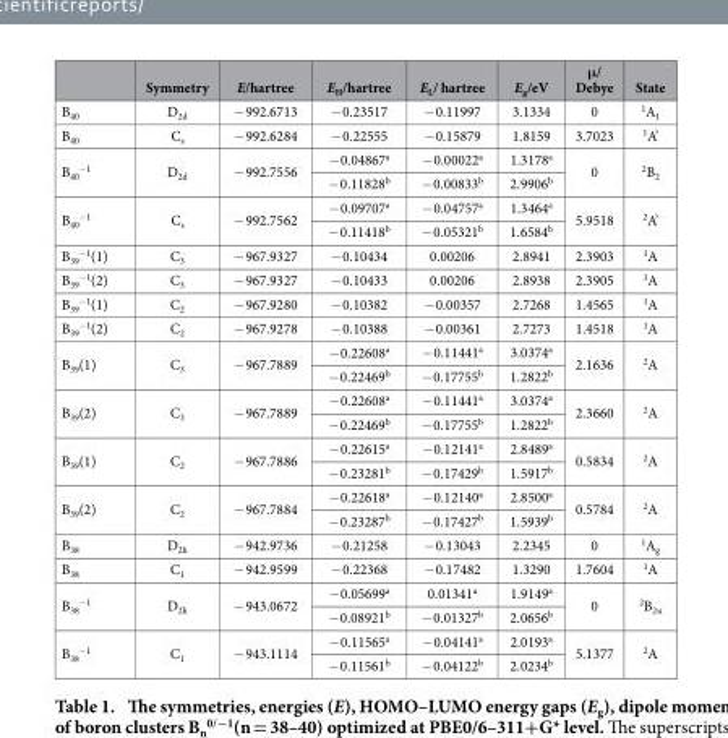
<table><thead><tr><td></td><td>Symmetry</td><td>E/hartree</td><td>E<sub>H</sub>/hartree</td><td>E<sub>L</sub>/ hartree</td><td>E<sub>g</sub>/eV</td><td>μ/ Debye</td><td>State</td></tr></thead><tbody><tr><td>B<sub>40</sub></td><td>D<sub>2d</sub></td><td>− 992.6713</td><td>− 0.23517</td><td>− 0.11997</td><td>3.1334</td><td>0</td><td><sup>1</sup>A<sub>1</sub></td></tr><tr><td>B<sub>40</sub></td><td>C<sub>s</sub></td><td>− 992.6284</td><td>− 0.22555</td><td>− 0.15879</td><td>1.8159</td><td>3.7023</td><td><sup>1</sup>A’</td></tr><tr><td rowspan="2">B<sub>40</sub> <sup>−1</sup></td><td rowspan="2">D<sub>2d</sub></td><td rowspan="2">− 992.7556</td><td>− 0.04867<sup>a</sup></td><td>− 0.00022<sup>a</sup></td><td>1.3178<sup>a</sup></td><td rowspan="2">0</td><td rowspan="2"><sup>2</sup>B<sub>2</sub></td></tr><tr><td>− 0.11828<sup>b</sup></td><td>− 0.00833<sup>b</sup></td><td>2.9906<sup>b</sup></td></tr><tr><td rowspan="2">B<sub>40</sub> <sup>−1</sup></td><td rowspan="2">C<sub>s</sub></td><td rowspan="2">− 992.7562</td><td>− 0.09707<sup>a</sup></td><td>− 0.04757<sup>a</sup></td><td>1.3464<sup>a</sup></td><td rowspan="2">5.9518</td><td rowspan="2"><sup>2</sup>A’</td></tr><tr><td>− 0.11418<sup>b</sup></td><td>− 0.05321<sup>b</sup></td><td>1.6584<sup>b</sup></td></tr><tr><td>B<sub>39</sub> <sup>−1</sup>(1)</td><td>C<sub>3</sub></td><td>− 967.9327</td><td>− 0.10434</td><td>0.00206</td><td>2.8941</td><td>2.3903</td><td><sup>1</sup>A</td></tr><tr><td>B<sub>39</sub> <sup>−1</sup>(2)</td><td>C<sub>3</sub></td><td>− 967.9327</td><td>− 0.10433</td><td>0.00206</td><td>2.8938</td><td>2.3905</td><td><sup>1</sup>A</td></tr><tr><td>B<sub>39</sub> <sup>−1</sup>(1)</td><td>C<sub>2</sub></td><td>− 967.9280</td><td>− 0.10382</td><td>− 0.00357</td><td>2.7268</td><td>1.4565</td><td><sup>1</sup>A</td></tr><tr><td>B<sub>39</sub> <sup>−1</sup>(2)</td><td>C<sub>2</sub></td><td>− 967.9278</td><td>− 0.10388</td><td>− 0.00361</td><td>2.7273</td><td>1.4518</td><td><sup>1</sup>A</td></tr><tr><td rowspan="2">B<sub>39</sub>(1)</td><td rowspan="2">C<sub>3</sub></td><td rowspan="2">− 967.7889</td><td>− 0.22608<sup>a</sup></td><td>− 0.11441<sup>a</sup></td><td>3.0374<sup>a</sup></td><td rowspan="2">2.1636</td><td rowspan="2"><sup>2</sup>A</td></tr><tr><td>− 0.22469<sup>b</sup></td><td>− 0.17755<sup>b</sup></td><td>1.2822<sup>b</sup></td></tr><tr><td rowspan="2">B<sub>39</sub>(2)</td><td rowspan="2">C<sub>3</sub></td><td rowspan="2">− 967.7889</td><td>− 0.22608<sup>a</sup></td><td>− 0.11441<sup>a</sup></td><td>3.0374<sup>a</sup></td><td rowspan="2">2.3660</td><td rowspan="2"><sup>2</sup>A</td></tr><tr><td>− 0.22469<sup>b</sup></td><td>− 0.17755<sup>b</sup></td><td>1.2822<sup>b</sup></td></tr><tr><td rowspan="2">B<sub>39</sub>(1)</td><td rowspan="2">C<sub>2</sub></td><td rowspan="2">− 967.7886</td><td>− 0.22615<sup>a</sup></td><td>− 0.12141<sup>a</sup></td><td>2.8489<sup>a</sup></td><td rowspan="2">0.5834</td><td rowspan="2"><sup>2</sup>A</td></tr><tr><td>− 0.23281<sup>b</sup></td><td>− 0.17429<sup>b</sup></td><td>1.5917<sup>b</sup></td></tr><tr><td rowspan="2">B<sub>39</sub>(2)</td><td rowspan="2">C<sub>2</sub></td><td rowspan="2">− 967.7884</td><td>− 0.22618<sup>a</sup></td><td>− 0.12140<sup>a</sup></td><td>2.8500<sup>a</sup></td><td rowspan="2">0.5784</td><td rowspan="2"><sup>2</sup>A</td></tr><tr><td>− 0.23287<sup>b</sup></td><td>− 0.17427<sup>b</sup></td><td>1.5939<sup>b</sup></td></tr><tr><td>B<sub>38</sub></td><td>D<sub>2h</sub></td><td>− 942.9736</td><td>− 0.21258</td><td>− 0.13043</td><td>2.2345</td><td>0</td><td><sup>1</sup>A<sub>g</sub></td></tr><tr><td>B<sub>38</sub></td><td>C<sub>1</sub></td><td>− 942.9599</td><td>− 0.22368</td><td>− 0.17482</td><td>1.3290</td><td>1.7604</td><td><sup>1</sup>A</td></tr><tr><td rowspan="2">B<sub>38</sub> <sup>−1</sup></td><td rowspan="2">D<sub>2h</sub></td><td rowspan="2">− 943.0672</td><td>− 0.05699<sup>a</sup></td><td>0.01341<sup>a</sup></td><td>1.9149<sup>a</sup></td><td rowspan="2">0</td><td rowspan="2"><sup>2</sup>B<sub>2u</sub></td></tr><tr><td>− 0.08921<sup>b</sup></td><td>− 0.01327<sup>b</sup></td><td>2.0656<sup>b</sup></td></tr><tr><td rowspan="2">B<sub>38</sub> <sup>−1</sup></td><td rowspan="2">C<sub>1</sub></td><td rowspan="2">− 943.1114</td><td>− 0.11565<sup>a</sup></td><td>− 0.04141<sup>a</sup></td><td>2.0193<sup>a</sup></td><td rowspan="2">5.1377</td><td rowspan="2"><sup>2</sup>A</td></tr><tr><td>− 0.11561<sup>b</sup></td><td>− 0.04122<sup>b</sup></td><td>2.0234<sup>b</sup></td></tr></tbody></table>